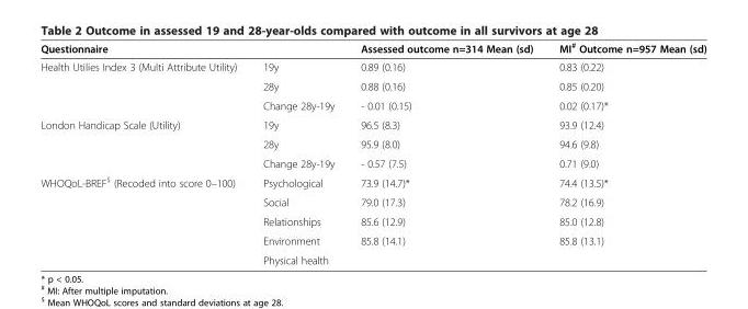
<table><thead><tr><td>Questionnaire</td><td></td><td>Assessed outcome n=314 Mean (sd)</td><td>MI<sup>#</sup> Outcome n=957 Mean (sd)</td></tr></thead><tbody><tr><td rowspan="3">Health Utilies Index 3 (Multi Attribute Utility)</td><td>19y</td><td>0.89 (0.16)</td><td>0.83 (0.22)</td></tr><tr><td>28y</td><td>0.88 (0.16)</td><td>0.85 (0.20)</td></tr><tr><td>Change 28y-19y</td><td>- 0.01 (0.15)</td><td>0.02 (0.17)*</td></tr><tr><td rowspan="3">London Handicap Scale (Utility)</td><td>19y</td><td>96.5 (8.3)</td><td>93.9 (12.4)</td></tr><tr><td>28y</td><td>95.9 (8.0)</td><td>94.6 (9.8)</td></tr><tr><td>Change 28y-19y</td><td>- 0.57 (7.5)</td><td>0.71 (9.0)</td></tr><tr><td rowspan="5">WHOQoL-BREF<sup>$</sup> (Recoded into score 0–100)</td><td>Psychological</td><td>73.9 (14.7)*</td><td>74.4 (13.5)*</td></tr><tr><td>Social</td><td>79.0 (17.3)</td><td>78.2 (16.9)</td></tr><tr><td>Relationships</td><td>85.6 (12.9)</td><td>85.0 (12.8)</td></tr><tr><td>Environment</td><td>85.8 (14.1)</td><td>85.8 (13.1)</td></tr><tr><td>Physical health</td><td></td><td></td></tr></tbody></table>